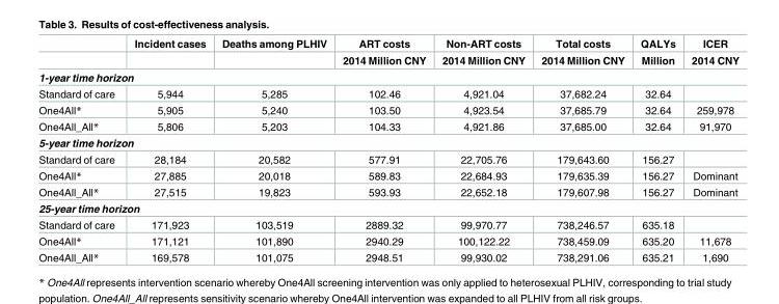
<table><thead><tr><td rowspan="2"></td><td rowspan="2">Incident cases</td><td rowspan="2">Deaths among PLHIV</td><td rowspan="2">ART costs 2014 Million CNY</td><td rowspan="2">Non-ART costs 2014 Million CNY</td><td rowspan="2">Total costs 2014 Million CNY</td><td rowspan="2">QALYs Million</td><td rowspan="2">ICER 2014 CNY</td></tr><tr></tr></thead><tbody><tr><td colspan="8">1-year time horizon</td></tr><tr><td>Standard of care</td><td>5,944</td><td>5,285</td><td>102.46</td><td>4,921.04</td><td>37,682.24</td><td>32.64</td><td></td></tr><tr><td>One4All*</td><td>5,905</td><td>5,240</td><td>103.50</td><td>4,923.54</td><td>37,685.79</td><td>32.64</td><td>259,978</td></tr><tr><td>One4All_All*</td><td>5,806</td><td>5,203</td><td>104.33</td><td>4,921.86</td><td>37,685.00</td><td>32.64</td><td>91,970</td></tr><tr><td colspan="8">5-year time horizon</td></tr><tr><td>Standard of care</td><td>28,184</td><td>20,582</td><td>577.91</td><td>22,705.76</td><td>179,643.60</td><td>156.27</td><td></td></tr><tr><td>One4All*</td><td>27,885</td><td>20,018</td><td>589.83</td><td>22,684.93</td><td>179,635.39</td><td>156.27</td><td>Dominant</td></tr><tr><td>One4All_All*</td><td>27,515</td><td>19,823</td><td>593.93</td><td>22,652.18</td><td>179,607.98</td><td>156.27</td><td>Dominant</td></tr><tr><td colspan="8">25-year time horizon</td></tr><tr><td>Standard of care</td><td>171,923</td><td>103,519</td><td>2889.32</td><td>99,970.77</td><td>738,246.57</td><td>635.18</td><td></td></tr><tr><td>One4All*</td><td>171,121</td><td>101,890</td><td>2940.29</td><td>100,122.22</td><td>738,459.09</td><td>635.20</td><td>11,678</td></tr><tr><td>One4All_All*</td><td>169,578</td><td>101,075</td><td>2948.51</td><td>99,930.02</td><td>738,291.06</td><td>635.21</td><td>1,690</td></tr></tbody></table>